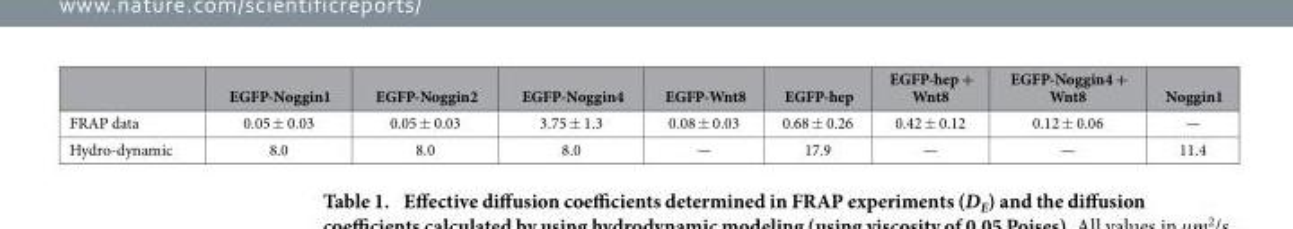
<table><thead><tr><td></td><td>EGFP-Noggin1</td><td>EGFP-Noggin2</td><td>EGFP-Noggin4</td><td>EGFP-Wnt8</td><td>EGFP-hep</td><td>EGFP-hep + Wnt8</td><td>EGFP-Noggin4 + Wnt8</td><td>Noggin1</td></tr></thead><tbody><tr><td>FRAP data</td><td>0.05 ± 0.03</td><td>0.05 ± 0.03</td><td>3.75 ± 1.3</td><td>0.08 ± 0.03</td><td>0.68 ± 0.26</td><td>0.42 ± 0.12</td><td>0.12 ± 0.06</td><td>—</td></tr><tr><td>Hydro-dynamic</td><td>8.0</td><td>8.0</td><td>8.0</td><td>—</td><td>17.9</td><td>—</td><td>—</td><td>11.4</td></tr></tbody></table>